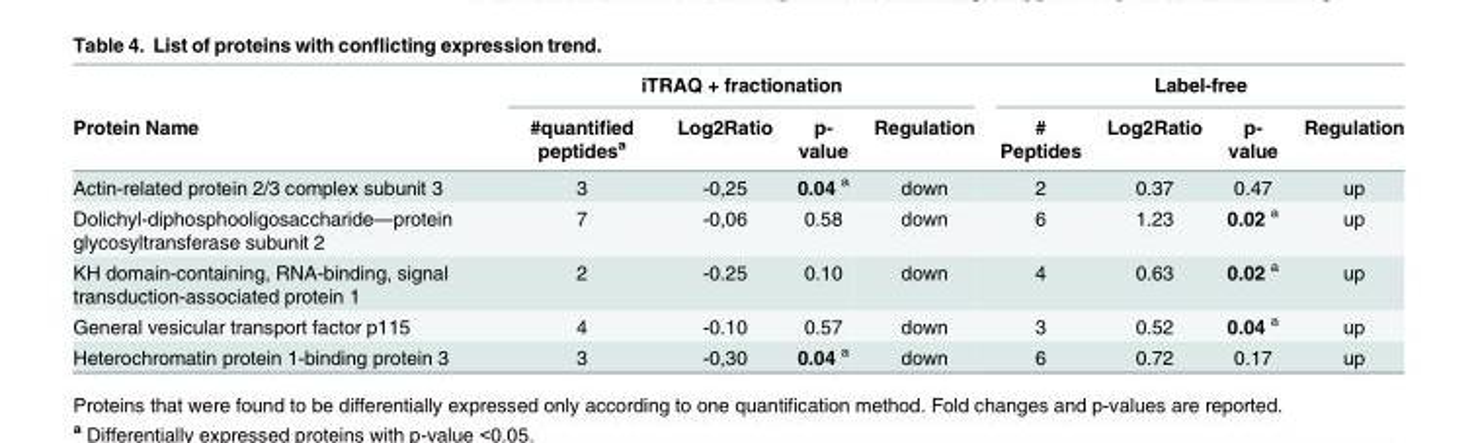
<table><thead><tr><td rowspan="2">Protein Name</td><td colspan="4">iTRAQ + fractionation</td><td colspan="4">Label-free</td></tr><tr><td>#quantified peptides<sup>a</sup></td><td>Log2Ratio</td><td>p- value</td><td>Regulation</td><td># Peptides</td><td>Log2Ratio</td><td>p- value</td><td>Regulation</td></tr></thead><tbody><tr><td>Actin-related protein 2/3 complex subunit 3</td><td>3</td><td>-0,25</td><td>0.04 <sup>a</sup></td><td>down</td><td>2</td><td>0.37</td><td>0.47</td><td>up</td></tr><tr><td>Dolichyl-diphosphooligosaccharide—protein glycosyltransferase subunit 2</td><td>7</td><td>-0,06</td><td>0.58</td><td>down</td><td>6</td><td>1.23</td><td>0.02 <sup>a</sup></td><td>up</td></tr><tr><td>KH domain-containing, RNA-binding, signal transduction-associated protein 1</td><td>2</td><td>-0.25</td><td>0.10</td><td>down</td><td>4</td><td>0.63</td><td>0.02 <sup>a</sup></td><td>up</td></tr><tr><td>General vesicular transport factor p115</td><td>4</td><td>-0.10</td><td>0.57</td><td>down</td><td>3</td><td>0.52</td><td>0.04 <sup>a</sup></td><td>up</td></tr><tr><td>Heterochromatin protein 1-binding protein 3</td><td>3</td><td>-0,30</td><td>0.04 <sup>a</sup></td><td>down</td><td>6</td><td>0.72</td><td>0.17</td><td>up</td></tr></tbody></table>